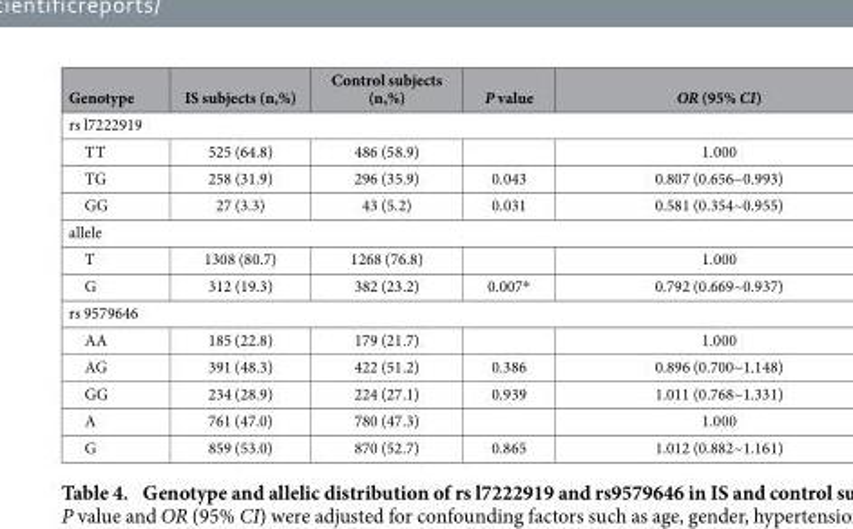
<table><thead><tr><td>Genotype</td><td>IS subjects (n,%)</td><td>Control subjects (n,%)</td><td>P value</td><td>OR (95% CI)</td></tr></thead><tbody><tr><td colspan="5">rs l7222919</td></tr><tr><td>TT</td><td>525 (64.8)</td><td>486 (58.9)</td><td></td><td>1.000</td></tr><tr><td>TG</td><td>258 (31.9)</td><td>296 (35.9)</td><td>0.043</td><td>0.807 (0.656~0.993)</td></tr><tr><td>GG</td><td>27 (3.3)</td><td>43 (5.2)</td><td>0.031</td><td>0.581 (0.354~0.955)</td></tr><tr><td colspan="5">allele</td></tr><tr><td>T</td><td>1308 (80.7)</td><td>1268 (76.8)</td><td></td><td>1.000</td></tr><tr><td>G</td><td>312 (19.3)</td><td>382 (23.2)</td><td>0.007*</td><td>0.792 (0.669~0.937)</td></tr><tr><td colspan="5">rs 9579646</td></tr><tr><td>AA</td><td>185 (22.8)</td><td>179 (21.7)</td><td></td><td>1.000</td></tr><tr><td>AG</td><td>391 (48.3)</td><td>422 (51.2)</td><td>0.386</td><td>0.896 (0.700~1.148)</td></tr><tr><td>GG</td><td>234 (28.9)</td><td>224 (27.1)</td><td>0.939</td><td>1.011 (0.768~1.331)</td></tr><tr><td>A</td><td>761 (47.0)</td><td>780 (47.3)</td><td></td><td>1.000</td></tr><tr><td>G</td><td>859 (53.0)</td><td>870 (52.7)</td><td>0.865</td><td>1.012 (0.882~1.161)</td></tr></tbody></table>